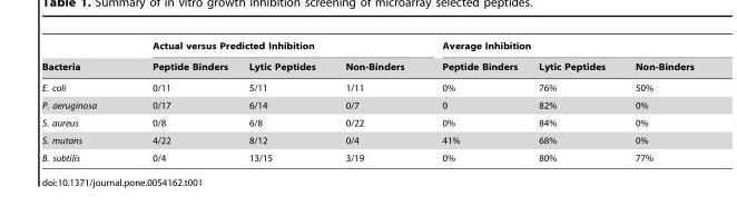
<table><thead><tr><td rowspan="2">Bacteria</td><td colspan="3">Actual versus Predicted Inhibition</td><td colspan="3">Average Inhibition</td></tr><tr><td>Peptide Binders</td><td>Lytic Peptides</td><td>Non-Binders</td><td>Peptide Binders</td><td>Lytic Peptides</td><td>Non-Binders</td></tr></thead><tbody><tr><td>E. coli</td><td>0/11</td><td>5/11</td><td>1/11</td><td>0%</td><td>76%</td><td>50%</td></tr><tr><td>P. aeruginosa</td><td>0/17</td><td>6/14</td><td>0/7</td><td>0</td><td>82%</td><td>0%</td></tr><tr><td>S. aureus</td><td>0/8</td><td>6/8</td><td>0/22</td><td>0%</td><td>84%</td><td>0%</td></tr><tr><td>S. mutans</td><td>4/22</td><td>8/12</td><td>0/4</td><td>41%</td><td>68%</td><td>0%</td></tr><tr><td>B. subtilis</td><td>0/4</td><td>13/15</td><td>3/19</td><td>0%</td><td>80%</td><td>77%</td></tr></tbody></table>